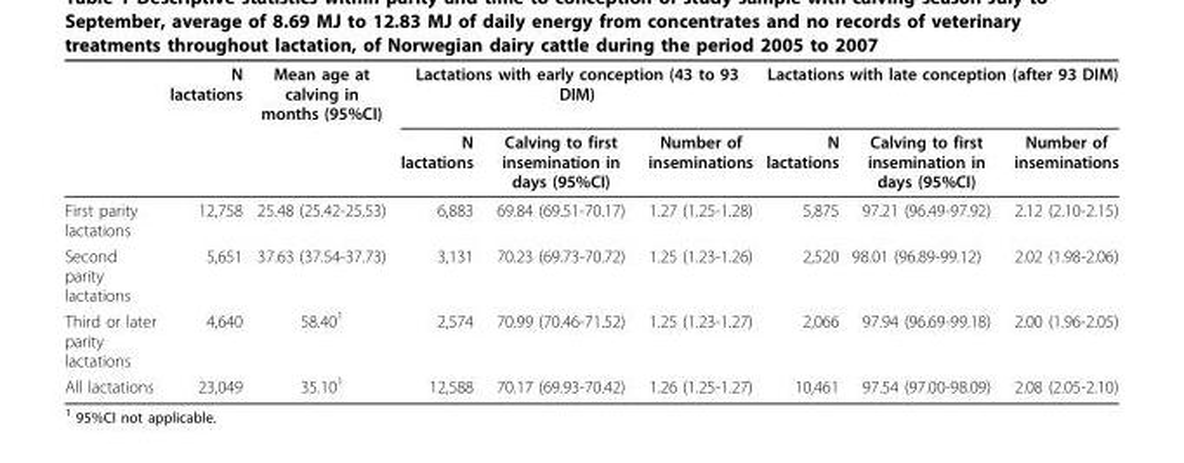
<table><thead><tr><td rowspan="2"></td><td rowspan="2">N lactations</td><td rowspan="2">Mean age at calving in months (95%CI)</td><td colspan="3">Lactations with early conception (43 to 93 DIM)</td><td colspan="3">Lactations with late conception (after 93 DIM)</td></tr><tr><td>N lactations</td><td>Calving to first insemination in days (95%CI)</td><td>Number of inseminations</td><td>N lactations</td><td>Calving to first insemination in days (95%CI)</td><td>Number of inseminations</td></tr></thead><tbody><tr><td>First parity lactations</td><td>12,758</td><td>25.48 (25.42-25.53)</td><td>6,883</td><td>69.84 (69.51-70.17)</td><td>1.27 (1.25-1.28)</td><td>5,875</td><td>97.21 (96.49-97.92)</td><td>2.12 (2.10-2.15)</td></tr><tr><td>Second parity lactations</td><td>5,651</td><td>37.63 (37.54-37.73)</td><td>3,131</td><td>70.23 (69.73-70.72)</td><td>1.25 (1.23-1.26)</td><td>2,520</td><td>98.01 (96.89-99.12)</td><td>2.02 (1.98-2.06)</td></tr><tr><td>Third or later parity lactations</td><td>4,640</td><td>58.40<sup>1</sup></td><td>2,574</td><td>70.99 (70.46-71.52)</td><td>1.25 (1.23-1.27)</td><td>2,066</td><td>97.94 (96.69-99.18)</td><td>2.00 (1.96-2.05)</td></tr><tr><td>All lactations</td><td>23,049</td><td>35.10<sup>1</sup></td><td>12,588</td><td>70.17 (69.93-70.42)</td><td>1.26 (1.25-1.27)</td><td>10,461</td><td>97.54 (97.00-98.09)</td><td>2.08 (2.05-2.10)</td></tr></tbody></table>